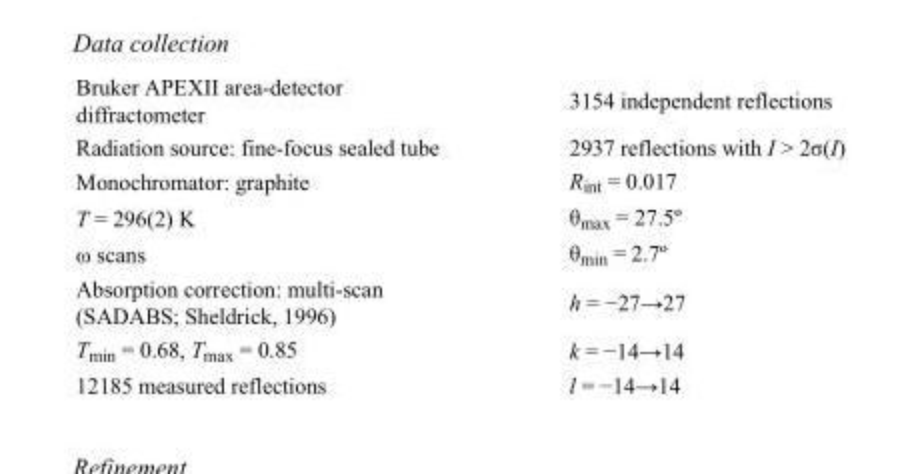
<table><tbody><tr><td>Bruker APEXII area-detector diffractometer</td><td>3154 independent reflections</td></tr><tr><td>Radiation source: fine-focus sealed tube</td><td>2937 reflections with I &gt; 2σ(I)</td></tr><tr><td>Monochromator: graphite</td><td>R<sub>int</sub> = 0.017</td></tr><tr><td>T = 296(2) K</td><td>θ<sub>max</sub> = 27.5º</td></tr><tr><td>ω scans</td><td>θ<sub>min</sub> = 2.7º</td></tr><tr><td>Absorption correction: multi-scan (SADABS; Sheldrick, 1996)</td><td>h = −27→27</td></tr><tr><td>T<sub>min</sub> = 0.68, T<sub>max</sub> = 0.85</td><td>k = −14→14</td></tr><tr><td>12185 measured reflections</td><td>l = −14→14</td></tr></tbody></table>